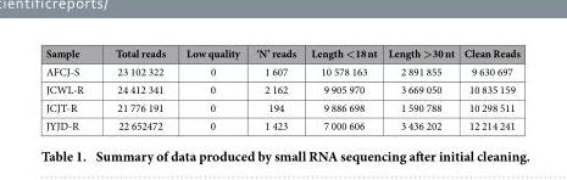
<table><thead><tr><td>Sample</td><td>Total reads</td><td>Low quality</td><td>‘N’ reads</td><td>Length &lt;18 nt</td><td>Length &gt;30 nt</td><td>Clean Reads</td></tr></thead><tbody><tr><td>AFCJ-S</td><td>23 102 322</td><td>0</td><td>1 607</td><td>10 578 163</td><td>2 891 855</td><td>9 630 697</td></tr><tr><td>JCWL-R</td><td>24 412 341</td><td>0</td><td>2 162</td><td>9 905 970</td><td>3 669 050</td><td>10 835 159</td></tr><tr><td>JCJT-R</td><td>21 776 191</td><td>0</td><td>194</td><td>9 886 698</td><td>1 590 788</td><td>10 298 511</td></tr><tr><td>JYJD-R</td><td>22 652472</td><td>0</td><td>1 423</td><td>7 000 606</td><td>3 436 202</td><td>12 214 241</td></tr></tbody></table>